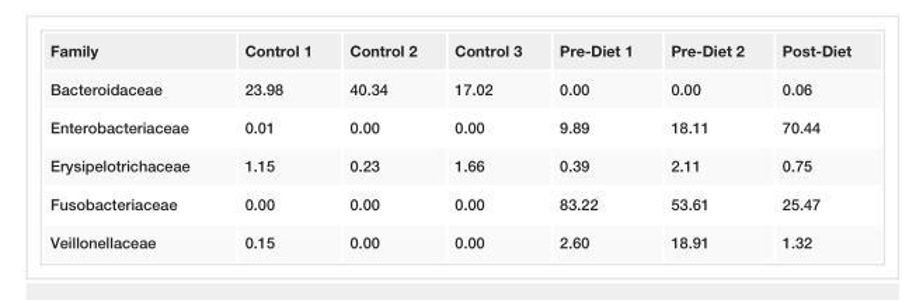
<table><tbody><tr><td>Family</td><td>Control 1</td><td>Control 2</td><td>Control 3</td><td>Pre-Diet 1</td><td>Pre-Diet 2</td><td>Post-Diet</td></tr><tr><td>Bacteroidaceae</td><td>23.98</td><td>40.34</td><td>17.02</td><td>0.00</td><td>0.00</td><td>0.06</td></tr><tr><td>Enterobacteriaceae</td><td>0.01</td><td>0.00</td><td>0.00</td><td>9.89</td><td>18.11</td><td>70.44</td></tr><tr><td>Erysipelotrichaceae</td><td>1.15</td><td>0.23</td><td>1.66</td><td>0.39</td><td>2.11</td><td>0.75</td></tr><tr><td>Fusobacteriaceae</td><td>0.00</td><td>0.00</td><td>0.00</td><td>83.22</td><td>53.61</td><td>25.47</td></tr><tr><td>Veillonellaceae</td><td>0.15</td><td>0.00</td><td>0.00</td><td>2.60</td><td>18.91</td><td>1.32</td></tr></tbody></table>